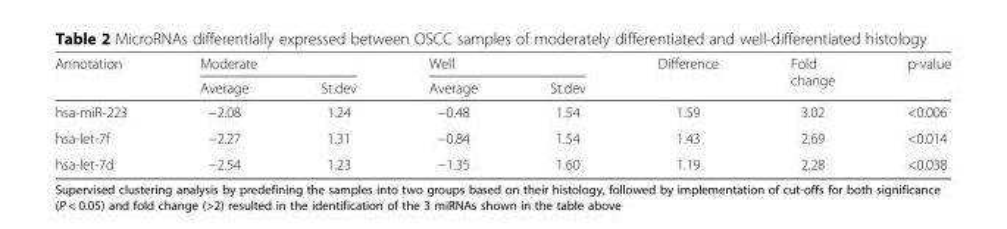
<table><thead><tr><td rowspan="2">Annotation</td><td colspan="2">Moderate</td><td colspan="2">Well</td><td rowspan="2">Difference</td><td rowspan="2">Fold change</td><td rowspan="2">p-value</td></tr><tr><td>Average</td><td>St.dev</td><td>Average</td><td>St.dev</td></tr></thead><tbody><tr><td>hsa-miR-223</td><td>−2.08</td><td>1.24</td><td>−0.48</td><td>1.54</td><td>1.59</td><td>3.02</td><td>&lt;0.006</td></tr><tr><td>hsa-let-7f</td><td>−2.27</td><td>1.31</td><td>−0.84</td><td>1.54</td><td>1.43</td><td>2.69</td><td>&lt;0.014</td></tr><tr><td>hsa-let-7d</td><td>−2.54</td><td>1.23</td><td>−1.35</td><td>1.60</td><td>1.19</td><td>2.28</td><td>&lt;0.038</td></tr></tbody></table>